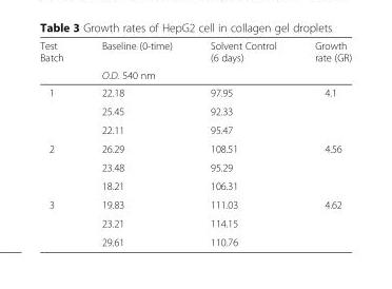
<table><thead><tr><td rowspan="2">Test Batch</td><td>Baseline (0-time)</td><td>Solvent Control (6 days)</td><td rowspan="2">Growth rate (GR)</td></tr><tr><td colspan="2">O.D. 540 nm</td></tr></thead><tbody><tr><td rowspan="3">1</td><td>22.18</td><td>97.95</td><td rowspan="3">4.1</td></tr><tr><td>25.45</td><td>92.33</td></tr><tr><td>22.11</td><td>95.47</td></tr><tr><td rowspan="3">2</td><td>26.29</td><td>108.51</td><td rowspan="3">4.56</td></tr><tr><td>23.48</td><td>95.29</td></tr><tr><td>18.21</td><td>106.31</td></tr><tr><td rowspan="3">3</td><td>19.83</td><td>111.03</td><td rowspan="3">4.62</td></tr><tr><td>23.21</td><td>114.15</td></tr><tr><td>29.61</td><td>110.76</td></tr></tbody></table>